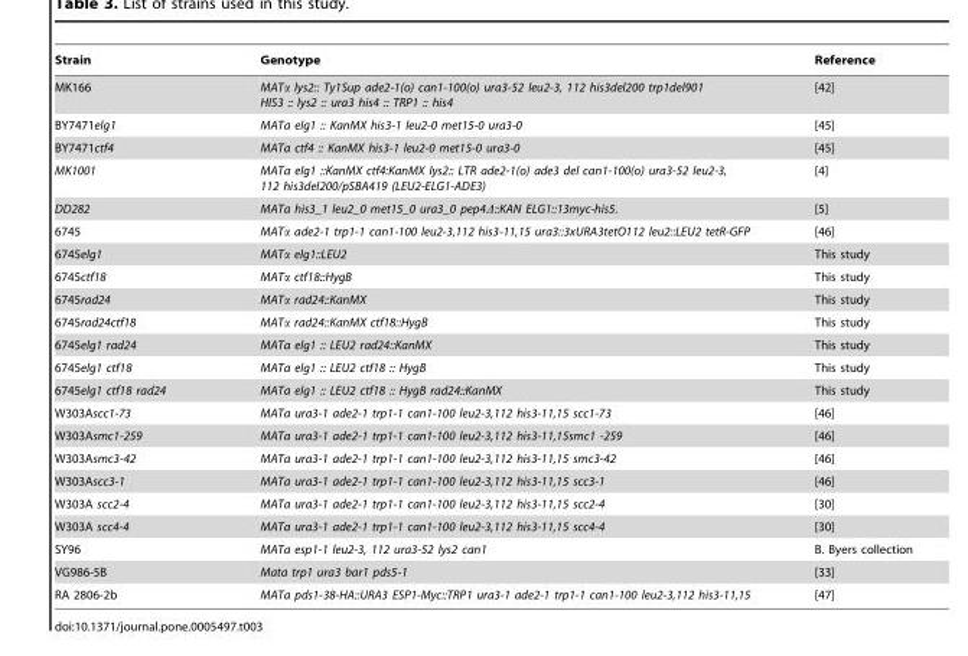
<table><thead><tr><td>Strain</td><td>Genotype</td><td>Reference</td></tr></thead><tbody><tr><td>MK166</td><td>MATα lys2:: Ty1Sup ade2-1(o) can1-100(o) ura3-52 leu2-3, 112 his3del200 trp1del901 HIS3 :: lys2 :: ura3 his4 :: TRP1 :: his4</td><td>[42]</td></tr><tr><td>BY7471elg1</td><td>MATa elg1 :: KanMX his3-1 leu2-0 met15-0 ura3-0</td><td>[45]</td></tr><tr><td>BY7471ctf4</td><td>MATa ctf4 :: KanMX his3-1 leu2-0 met15-0 ura3-0</td><td>[45]</td></tr><tr><td>MK1001</td><td>MATa elg1 ::KanMX ctf4:KanMX lys2:: LTR ade2-1(o) ade3 del can1-100(o) ura3-52 leu2-3, 112 his3del200/pSBA419 (LEU2-ELG1-ADE3)</td><td>[4]</td></tr><tr><td>DD282</td><td>MATa his3_1 leu2_0 met15_0 ura3_0 pep4Δ::KAN ELG1::13myc-his5.</td><td>[5]</td></tr><tr><td>6745</td><td>MATα ade2-1 trp1-1 can1-100 leu2-3,112 his3-11,15 ura3::3xURA3tetO112 leu2::LEU2 tetR-GFP</td><td>[46]</td></tr><tr><td>6745elg1</td><td>MATα elg1::LEU2</td><td>This study</td></tr><tr><td>6745ctf18</td><td>MATα ctf18::HygB</td><td>This study</td></tr><tr><td>6745rad24</td><td>MATα rad24::KanMX</td><td>This study</td></tr><tr><td>6745rad24ctf18</td><td>MATα rad24::KanMX ctf18::HygB</td><td>This study</td></tr><tr><td>6745elg1 rad24</td><td>MATa elg1 :: LEU2 rad24::KanMX</td><td>This study</td></tr><tr><td>6745elg1 ctf18</td><td>MATa elg1 :: LEU2 ctf18 :: HygB</td><td>This study</td></tr><tr><td>6745elg1 ctf18 rad24</td><td>MATa elg1 :: LEU2 ctf18 :: HygB rad24::KanMX</td><td>This study</td></tr><tr><td>W303Ascc1-73</td><td>MATa ura3-1 ade2-1 trp1-1 can1-100 leu2-3,112 his3-11,15 scc1-73</td><td>[46]</td></tr><tr><td>W303Asmc1-259</td><td>MATa ura3-1 ade2-1 trp1-1 can1-100 leu2-3,112 his3-11,15smc1 -259</td><td>[46]</td></tr><tr><td>W303Asmc3-42</td><td>MATa ura3-1 ade2-1 trp1-1 can1-100 leu2-3,112 his3-11,15 smc3-42</td><td>[46]</td></tr><tr><td>W303Ascc3-1</td><td>MATa ura3-1 ade2-1 trp1-1 can1-100 leu2-3,112 his3-11,15 scc3-1</td><td>[46]</td></tr><tr><td>W303A scc2-4</td><td>MATa ura3-1 ade2-1 trp1-1 can1-100 leu2-3,112 his3-11,15 scc2-4</td><td>[30]</td></tr><tr><td>W303A scc4-4</td><td>MATa ura3-1 ade2-1 trp1-1 can1-100 leu2-3,112 his3-11,15 scc4-4</td><td>[30]</td></tr><tr><td>SY96</td><td>MATa esp1-1 leu2-3, 112 ura3-52 lys2 can1</td><td>B. Byers collection</td></tr><tr><td>VG986-5B</td><td>Mata trp1 ura3 bar1 pds5-1</td><td>[33]</td></tr><tr><td>RA 2806-2b</td><td>MATa pds1-38-HA::URA3 ESP1-Myc::TRP1 ura3-1 ade2-1 trp1-1 can1-100 leu2-3,112 his3-11,15</td><td>[47]</td></tr></tbody></table>